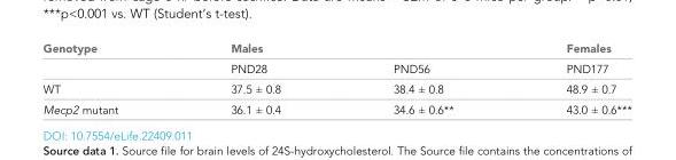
<table><thead><tr><td rowspan="2">Genotype</td><td colspan="2">Males</td><td rowspan="2">Females PND177</td></tr><tr><td>PND28</td><td>PND56</td></tr></thead><tbody><tr><td>WT</td><td>37.5 ± 0.8</td><td>38.4 ± 0.8</td><td>48.9 ± 0.7</td></tr><tr><td>Mecp2 mutant</td><td>36.1 ± 0.4</td><td>34.6 ± 0.6**</td><td>43.0 ± 0.6***</td></tr></tbody></table>